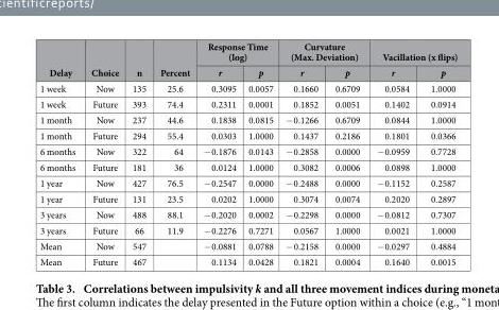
<table><thead><tr><td rowspan="2">Delay</td><td rowspan="2">Choice</td><td rowspan="2">n</td><td rowspan="2">Percent</td><td colspan="2">Response Time (log)</td><td colspan="2">Curvature (Max. Deviation)</td><td colspan="2">Vacillation (x flips)</td></tr><tr><td>r</td><td>p</td><td>r</td><td>p</td><td>r</td><td>p</td></tr></thead><tbody><tr><td>1 week</td><td>Now</td><td>135</td><td>25.6</td><td>0.3095</td><td>0.0057</td><td>0.1660</td><td>0.6709</td><td>0.0584</td><td>1.0000</td></tr><tr><td>1 week</td><td>Future</td><td>393</td><td>74.4</td><td>0.2311</td><td>0.0001</td><td>0.1852</td><td>0.0051</td><td>0.1402</td><td>0.0914</td></tr><tr><td>1 month</td><td>Now</td><td>237</td><td>44.6</td><td>0.1838</td><td>0.0815</td><td>− 0.1266</td><td>0.6709</td><td>0.0844</td><td>1.0000</td></tr><tr><td>1 month</td><td>Future</td><td>294</td><td>55.4</td><td>0.0303</td><td>1.0000</td><td>0.1437</td><td>0.2186</td><td>0.1801</td><td>0.0366</td></tr><tr><td>6 months</td><td>Now</td><td>322</td><td>64</td><td>− 0.1876</td><td>0.0143</td><td>− 0.2858</td><td>0.0000</td><td>− 0.0959</td><td>0.7728</td></tr><tr><td>6 months</td><td>Future</td><td>181</td><td>36</td><td>0.0124</td><td>1.0000</td><td>0.3082</td><td>0.0006</td><td>0.0898</td><td>1.0000</td></tr><tr><td>1 year</td><td>Now</td><td>427</td><td>76.5</td><td>− 0.2547</td><td>0.0000</td><td>− 0.2488</td><td>0.0000</td><td>− 0.1152</td><td>0.2587</td></tr><tr><td>1 year</td><td>Future</td><td>131</td><td>23.5</td><td>0.0202</td><td>1.0000</td><td>0.3074</td><td>0.0074</td><td>0.2020</td><td>0.2897</td></tr><tr><td>3 years</td><td>Now</td><td>488</td><td>88.1</td><td>− 0.2020</td><td>0.0002</td><td>− 0.2298</td><td>0.0000</td><td>− 0.0812</td><td>0.7307</td></tr><tr><td>3 years</td><td>Future</td><td>66</td><td>11.9</td><td>− 0.2276</td><td>0.7271</td><td>0.0567</td><td>1.0000</td><td>0.0021</td><td>1.0000</td></tr><tr><td>Mean</td><td>Now</td><td>547</td><td></td><td>− 0.0881</td><td>0.0788</td><td>− 0.2158</td><td>0.0000</td><td>− 0.0297</td><td>0.4884</td></tr><tr><td>Mean</td><td>Future</td><td>467</td><td></td><td>0.1134</td><td>0.0428</td><td>0.1821</td><td>0.0004</td><td>0.1640</td><td>0.0015</td></tr></tbody></table>